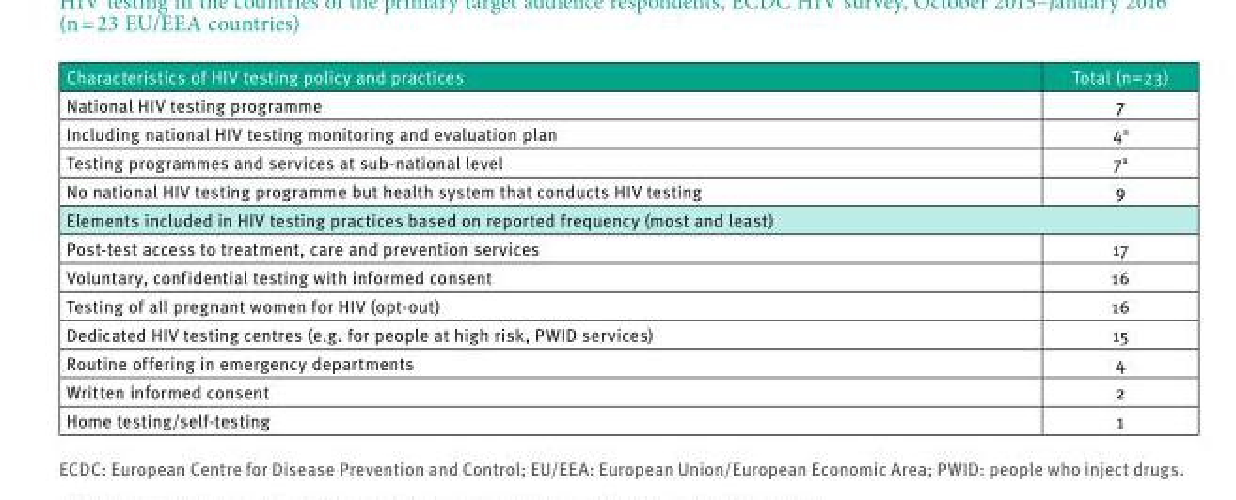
<table><thead><tr><td>Characteristics of HIV testing policy and practices</td><td>Total (n=23)</td></tr></thead><tbody><tr><td>National HIV testing programme</td><td>7</td></tr><tr><td>Including national HIV testing monitoring and evaluation plan</td><td>4<sup>a</sup></td></tr><tr><td>Testing programmes and services at sub-national level</td><td>7<sup>a</sup></td></tr><tr><td>No national HIV testing programme but health system that conducts HIV testing</td><td>9</td></tr><tr><td colspan="2">Elements included in HIV testing practices based on reported frequency (most and least)</td></tr><tr><td>Post-test access to treatment, care and prevention services</td><td>17</td></tr><tr><td>Voluntary, confidential testing with informed consent</td><td>16</td></tr><tr><td>Testing of all pregnant women for HIV (opt-out)</td><td>16</td></tr><tr><td>Dedicated HIV testing centres (e.g. for people at high risk, PWID services)</td><td>15</td></tr><tr><td>Routine offering in emergency departments</td><td>4</td></tr><tr><td>Written informed consent</td><td>2</td></tr><tr><td>Home testing/self-testing</td><td>1</td></tr></tbody></table>